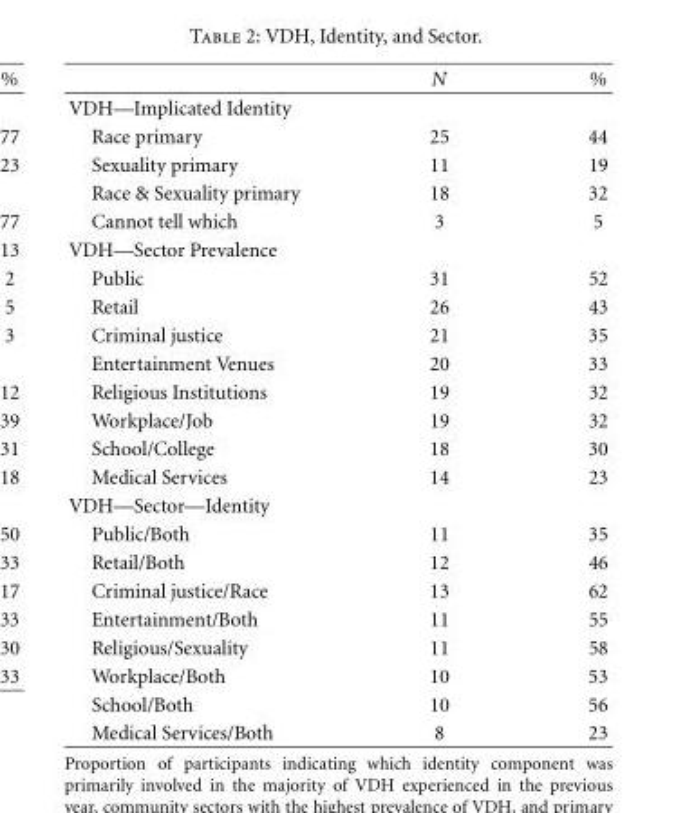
<table><thead><tr><td></td><td>N</td><td>%</td></tr></thead><tbody><tr><td colspan="3">VDH—Implicated Identity</td></tr><tr><td>Race primary</td><td>25</td><td>44</td></tr><tr><td>Sexuality primary</td><td>11</td><td>19</td></tr><tr><td>Race &amp; Sexuality primary</td><td>18</td><td>32</td></tr><tr><td>Cannot tell which</td><td>3</td><td>5</td></tr><tr><td colspan="3">VDH—Sector Prevalence</td></tr><tr><td>Public</td><td>31</td><td>52</td></tr><tr><td>Retail</td><td>26</td><td>43</td></tr><tr><td>Criminal justice</td><td>21</td><td>35</td></tr><tr><td>Entertainment Venues</td><td>20</td><td>33</td></tr><tr><td>Religious Institutions</td><td>19</td><td>32</td></tr><tr><td>Workplace/Job</td><td>19</td><td>32</td></tr><tr><td>School/College</td><td>18</td><td>30</td></tr><tr><td>Medical Services</td><td>14</td><td>23</td></tr><tr><td colspan="3">VDH—Sector—Identity</td></tr><tr><td>Public/Both</td><td>11</td><td>35</td></tr><tr><td>Retail/Both</td><td>12</td><td>46</td></tr><tr><td>Criminal justice/Race</td><td>13</td><td>62</td></tr><tr><td>Entertainment/Both</td><td>11</td><td>55</td></tr><tr><td>Religious/Sexuality</td><td>11</td><td>58</td></tr><tr><td>Workplace/Both</td><td>10</td><td>53</td></tr><tr><td>School/Both</td><td>10</td><td>56</td></tr><tr><td>Medical Services/Both</td><td>8</td><td>23</td></tr></tbody></table>